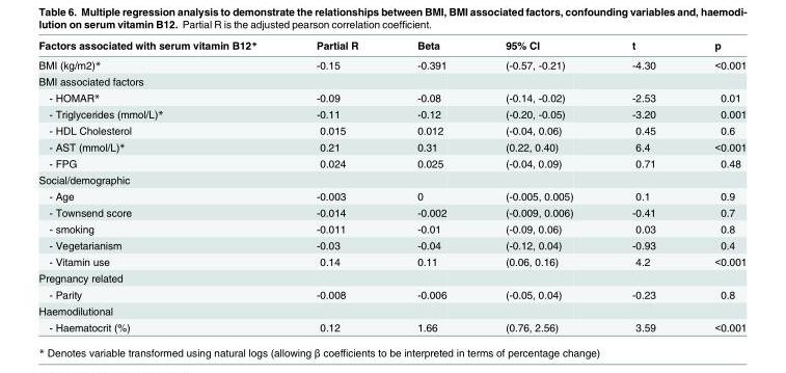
<table><thead><tr><td>Factors associated with serum vitamin B12*</td><td>Partial R</td><td>Beta</td><td>95% CI</td><td>t</td><td>p</td></tr></thead><tbody><tr><td>BMI (kg/m2)*</td><td>-0.15</td><td>-0.391</td><td>(-0.57, -0.21)</td><td>-4.30</td><td>&lt;0.001</td></tr><tr><td colspan="6">BMI associated factors</td></tr><tr><td>- HOMAR*</td><td>-0.09</td><td>-0.08</td><td>(-0.14, -0.02)</td><td>-2.53</td><td>0.01</td></tr><tr><td>- Triglycerides (mmol/L)*</td><td>-0.11</td><td>-0.12</td><td>(-0.20, -0.05)</td><td>-3.20</td><td>0.001</td></tr><tr><td>- HDL Cholesterol</td><td>0.015</td><td>0.012</td><td>(-0.04, 0.06)</td><td>0.45</td><td>0.6</td></tr><tr><td>- AST (mmol/L)*</td><td>0.21</td><td>0.31</td><td>(0.22, 0.40)</td><td>6.4</td><td>&lt;0.001</td></tr><tr><td>- FPG</td><td>0.024</td><td>0.025</td><td>(-0.04, 0.09)</td><td>0.71</td><td>0.48</td></tr><tr><td colspan="6">Social/demographic</td></tr><tr><td>- Age</td><td>-0.003</td><td>0</td><td>(-0.005, 0.005)</td><td>0.1</td><td>0.9</td></tr><tr><td>- Townsend score</td><td>-0.014</td><td>-0.002</td><td>(-0.009, 0.006)</td><td>-0.41</td><td>0.7</td></tr><tr><td>- smoking</td><td>-0.011</td><td>-0.01</td><td>(-0.09, 0.06)</td><td>0.03</td><td>0.8</td></tr><tr><td>- Vegetarianism</td><td>-0.03</td><td>-0.04</td><td>(-0.12, 0.04)</td><td>-0.93</td><td>0.4</td></tr><tr><td>- Vitamin use</td><td>0.14</td><td>0.11</td><td>(0.06, 0.16)</td><td>4.2</td><td>&lt;0.001</td></tr><tr><td colspan="6">Pregnancy related</td></tr><tr><td>- Parity</td><td>-0.008</td><td>-0.006</td><td>(-0.05, 0.04)</td><td>-0.23</td><td>0.8</td></tr><tr><td colspan="6">Haemodilutional</td></tr><tr><td>- Haematocrit (%)</td><td>0.12</td><td>1.66</td><td>(0.76, 2.56)</td><td>3.59</td><td>&lt;0.001</td></tr></tbody></table>